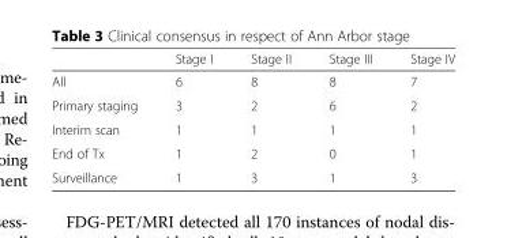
<table><thead><tr><td></td><td>Stage I</td><td>Stage II</td><td>Stage III</td><td>Stage IV</td></tr></thead><tbody><tr><td>All</td><td>6</td><td>8</td><td>8</td><td>7</td></tr><tr><td>Primary staging</td><td>3</td><td>2</td><td>6</td><td>2</td></tr><tr><td>Interim scan</td><td>1</td><td>1</td><td>1</td><td>1</td></tr><tr><td>End of Tx</td><td>1</td><td>2</td><td>0</td><td>1</td></tr><tr><td>Surveillance</td><td>1</td><td>3</td><td>1</td><td>3</td></tr></tbody></table>